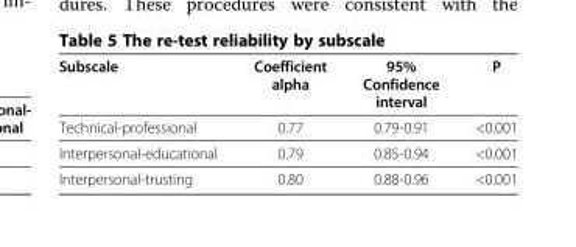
<table><thead><tr><td>Subscale</td><td>Coefficient alpha</td><td>95% Confidence interval</td><td>P</td></tr></thead><tbody><tr><td>Technical-professional</td><td>0.77</td><td>0.79-0.91</td><td>&lt;0.001</td></tr><tr><td>Interpersonal-educational</td><td>0.79</td><td>0.85-0.94</td><td>&lt;0.001</td></tr><tr><td>Interpersonal-trusting</td><td>0.80</td><td>0.88-0.96</td><td>&lt;0.001</td></tr></tbody></table>